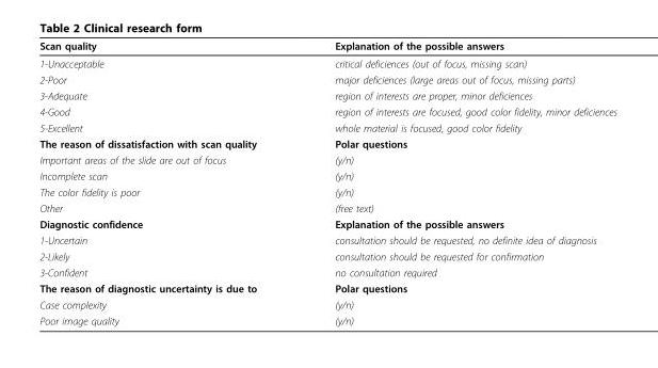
<table><thead><tr><td>Scan quality</td><td>Explanation of the possible answers</td></tr></thead><tbody><tr><td>1-Unacceptable</td><td>critical deficiences (out of focus, missing scan)</td></tr><tr><td>2-Poor</td><td>major deficiences (large areas out of focus, missing parts)</td></tr><tr><td>3-Adequate</td><td>region of interests are proper, minor deficiences</td></tr><tr><td>4-Good</td><td>region of interests are focused, good color fidelity, minor deficiences</td></tr><tr><td>5-Excellent</td><td>whole material is focused, good color fidelity</td></tr><tr><td>The reason of dissatisfaction with scan quality</td><td>Polar questions</td></tr><tr><td>Important areas of the slide are out of focus</td><td>(y/n)</td></tr><tr><td>Incomplete scan</td><td>(y/n)</td></tr><tr><td>The color fidelity is poor</td><td>(y/n)</td></tr><tr><td>Other</td><td>(free text)</td></tr><tr><td>Diagnostic confidence</td><td>Explanation of the possible answers</td></tr><tr><td>1-Uncertain</td><td>consultation should be requested, no definite idea of diagnosis</td></tr><tr><td>2-Likely</td><td>consultation should be requested for confirmation</td></tr><tr><td>3-Confident</td><td>no consultation required</td></tr><tr><td>The reason of diagnostic uncertainty is due to</td><td>Polar questions</td></tr><tr><td>Case complexity</td><td>(y/n)</td></tr><tr><td>Poor image quality</td><td>(y/n)</td></tr></tbody></table>